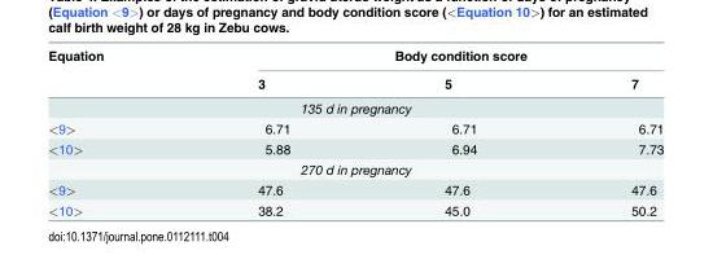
<table><thead><tr><td rowspan="2">Equation</td><td colspan="3">Body condition score</td></tr><tr><td>3</td><td>5</td><td>7</td></tr></thead><tbody><tr><td colspan="4">135 d in pregnancy</td></tr><tr><td>&lt;9&gt;</td><td>6.71</td><td>6.71</td><td>6.71</td></tr><tr><td>&lt;10&gt;</td><td>5.88</td><td>6.94</td><td>7.73</td></tr><tr><td colspan="4">270 d in pregnancy</td></tr><tr><td>&lt;9&gt;</td><td>47.6</td><td>47.6</td><td>47.6</td></tr><tr><td>&lt;10&gt;</td><td>38.2</td><td>45.0</td><td>50.2</td></tr></tbody></table>